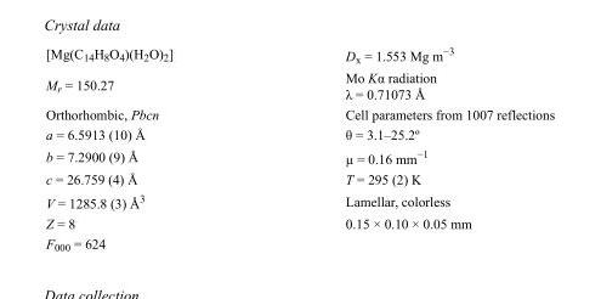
<table><tbody><tr><td>[Mg(C<sub>14</sub>H<sub>8</sub>O<sub>4</sub>)(H<sub>2</sub>O)<sub>2</sub>]</td><td>D<sub>x</sub> = 1.553 Mg m<sup>−3</sup></td></tr><tr><td>M<sub>r</sub> = 150.27</td><td>Mo Kα radiation λ = 0.71073 Å</td></tr><tr><td>Orthorhombic, Pbcn</td><td>Cell parameters from 1007 reflections</td></tr><tr><td>a = 6.5913 (10) Å</td><td>θ = 3.1–25.2º</td></tr><tr><td>b = 7.2900 (9) Å</td><td>µ = 0.16 mm<sup>−1</sup></td></tr><tr><td>c = 26.759 (4) Å</td><td>T = 295 (2) K</td></tr><tr><td>V = 1285.8 (3) Å<sup>3</sup></td><td>Lamellar, colorless</td></tr><tr><td>Z = 8</td><td>0.15 × 0.10 × 0.05 mm</td></tr><tr><td>F000 = 624</td><td></td></tr></tbody></table>